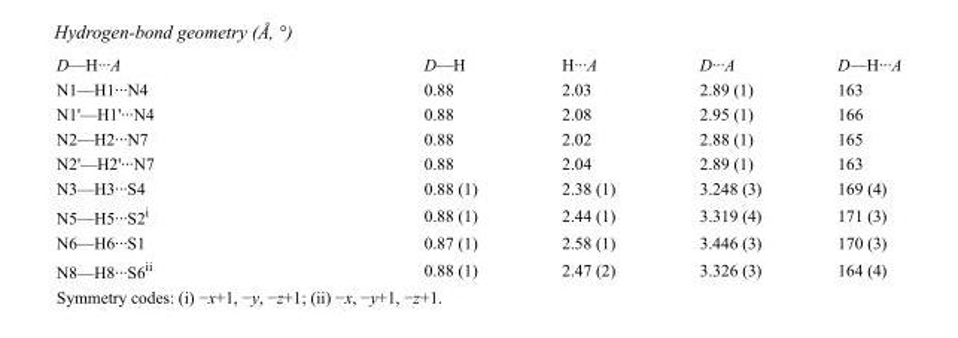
<table><tbody><tr><td>D—H···A</td><td>D—H</td><td>H···A</td><td>D···A</td><td>D—H···A</td></tr><tr><td>N1—H1···N4</td><td>0.88</td><td>2.03</td><td>2.89 (1)</td><td>163</td></tr><tr><td>N1&#x27;—H1&#x27;···N4</td><td>0.88</td><td>2.08</td><td>2.95 (1)</td><td>166</td></tr><tr><td>N2—H2···N7</td><td>0.88</td><td>2.02</td><td>2.88 (1)</td><td>165</td></tr><tr><td>N2&#x27;—H2&#x27;···N7</td><td>0.88</td><td>2.04</td><td>2.89 (1)</td><td>163</td></tr><tr><td>N3—H3···S4</td><td>0.88 (1)</td><td>2.38 (1)</td><td>3.248 (3)</td><td>169 (4)</td></tr><tr><td>N5—H5···S2<sup>i</sup></td><td>0.88 (1)</td><td>2.44 (1)</td><td>3.319 (4)</td><td>171 (3)</td></tr><tr><td>N6—H6···S1</td><td>0.87 (1)</td><td>2.58 (1)</td><td>3.446 (3)</td><td>170 (3)</td></tr><tr><td>N8—H8···S6<sup>ii</sup></td><td>0.88 (1)</td><td>2.47 (2)</td><td>3.326 (3)</td><td>164 (4)</td></tr></tbody></table>